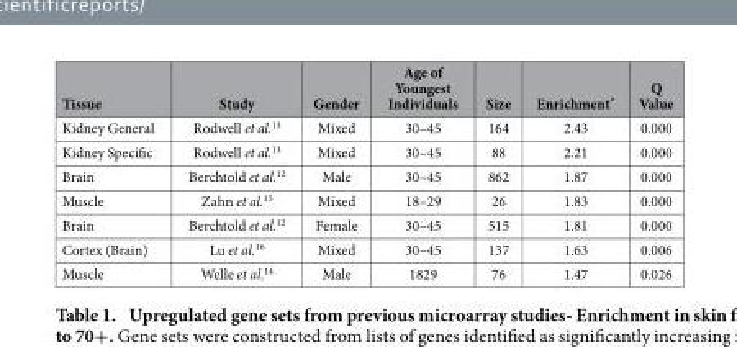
<table><thead><tr><td>Tissue</td><td>Study</td><td>Gender</td><td>Age of Youngest Individuals</td><td>Size</td><td>Enrichment*</td><td>Q Value</td></tr></thead><tbody><tr><td>Kidney General</td><td>Rodwell et al.<sup>13</sup></td><td>Mixed</td><td>30–45</td><td>164</td><td>2.43</td><td>0.000</td></tr><tr><td>Kidney Specific</td><td>Rodwell et al.<sup>13</sup></td><td>Mixed</td><td>30–45</td><td>88</td><td>2.21</td><td>0.000</td></tr><tr><td>Brain</td><td>Berchtold et al.<sup>12</sup></td><td>Male</td><td>30–45</td><td>862</td><td>1.87</td><td>0.000</td></tr><tr><td>Muscle</td><td>Zahn et al.<sup>15</sup></td><td>Mixed</td><td>18–29</td><td>26</td><td>1.83</td><td>0.000</td></tr><tr><td>Brain</td><td>Berchtold et al.<sup>12</sup></td><td>Female</td><td>30–45</td><td>515</td><td>1.81</td><td>0.000</td></tr><tr><td>Cortex (Brain)</td><td>Lu et al.<sup>16</sup></td><td>Mixed</td><td>30–45</td><td>137</td><td>1.63</td><td>0.006</td></tr><tr><td>Muscle</td><td>Welle et al.<sup>14</sup></td><td>Male</td><td>1829</td><td>76</td><td>1.47</td><td>0.026</td></tr></tbody></table>